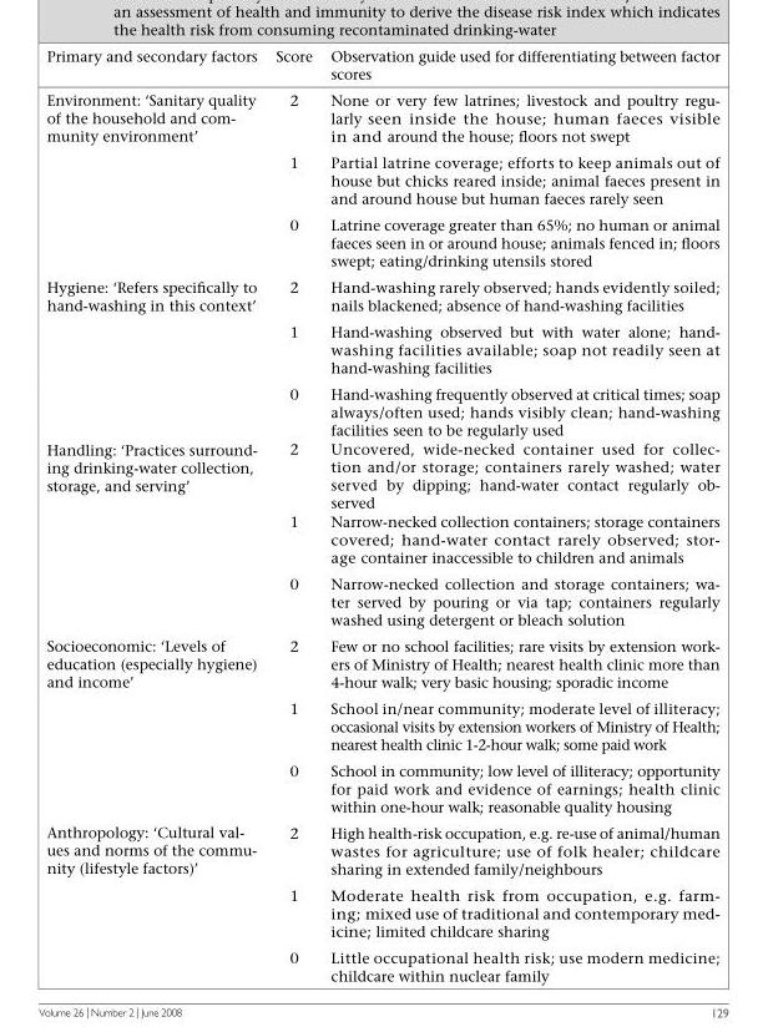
<table><thead><tr><td>Primary and secondary factors</td><td>Score</td><td>Observation guide used for differentiating between factor scores</td></tr></thead><tbody><tr><td rowspan="3">Environment: ‘Sanitary quality of the household and com- munity environment’</td><td>2</td><td>None or very few latrines; livestock and poultry regu- larly seen inside the house; human faeces visible in and around the house; floors not swept</td></tr><tr><td>1</td><td>Partial latrine coverage; efforts to keep animals out of house but chicks reared inside; animal faeces present in and around house but human faeces rarely seen</td></tr><tr><td>0</td><td>Latrine coverage greater than 65%; no human or animal faeces seen in or around house; animals fenced in; floors swept; eating/drinking utensils stored</td></tr><tr><td rowspan="3">Hygiene: ‘Refers specifically to hand-washing in this context’</td><td>2</td><td>Hand-washing rarely observed; hands evidently soiled; nails blackened; absence of hand-washing facilities</td></tr><tr><td>1</td><td>Hand-washing observed but with water alone; hand- washing facilities available; soap not readily seen at hand-washing facilities</td></tr><tr><td>0</td><td>Hand-washing frequently observed at critical times; soap always/often used; hands visibly clean; hand-washing facilities seen to be regularly used</td></tr><tr><td rowspan="3">Handling: ‘Practices surround- ing drinking-water collection, storage, and serving’</td><td>2</td><td>Uncovered, wide-necked container used for collec- tion and/or storage; containers rarely washed; water served by dipping; hand-water contact regularly ob- served</td></tr><tr><td>1</td><td>Narrow-necked collection containers; storage containers covered; hand-water contact rarely observed; stor- age container inaccessible to children and animals</td></tr><tr><td>0</td><td>Narrow-necked collection and storage containers; wa- ter served by pouring or via tap; containers regularly washed using detergent or bleach solution</td></tr><tr><td rowspan="3">Socioeconomic: ‘Levels of education (especially hygiene) and income’</td><td>2</td><td>Few or no school facilities; rare visits by extension work- ers of Ministry of Health; nearest health clinic more than 4-hour walk; very basic housing; sporadic income</td></tr><tr><td>1</td><td>School in/near community; moderate level of illiteracy; occasional visits by extension workers of Ministry of Health; nearest health clinic 1-2-hour walk; some paid work</td></tr><tr><td>0</td><td>School in community; low level of illiteracy; opportunity for paid work and evidence of earnings; health clinic within one-hour walk; reasonable quality housing</td></tr><tr><td rowspan="3">Anthropology: ‘Cultural val- ues and norms of the commu- nity (lifestyle factors)’</td><td>2</td><td>High health-risk occupation, e.g. re-use of animal/human wastes for agriculture; use of folk healer; childcare sharing in extended family/neighbours</td></tr><tr><td>1</td><td>Moderate health risk from occupation, e.g. farm- ing; mixed use of traditional and contemporary med- icine; limited childcare sharing</td></tr><tr><td>0</td><td>Little occupational health risk; use modern medicine; childcare within nuclear family</td></tr></tbody></table>